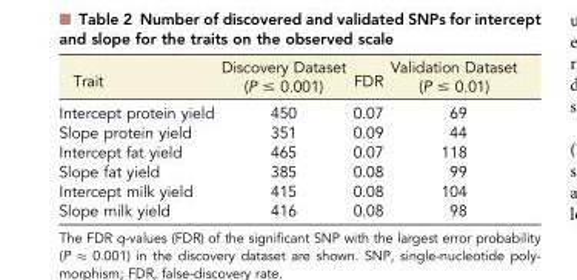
<table><thead><tr><td>Trait</td><td>Discovery Dataset (P ≤ 0.001)</td><td>FDR</td><td>Validation Dataset (P ≤ 0.01)</td></tr></thead><tbody><tr><td>Intercept protein yield</td><td>450</td><td>0.07</td><td>69</td></tr><tr><td>Slope protein yield</td><td>351</td><td>0.09</td><td>44</td></tr><tr><td>Intercept fat yield</td><td>465</td><td>0.07</td><td>118</td></tr><tr><td>Slope fat yield</td><td>385</td><td>0.08</td><td>99</td></tr><tr><td>Intercept milk yield</td><td>415</td><td>0.08</td><td>104</td></tr><tr><td>Slope milk yield</td><td>416</td><td>0.08</td><td>98</td></tr></tbody></table>